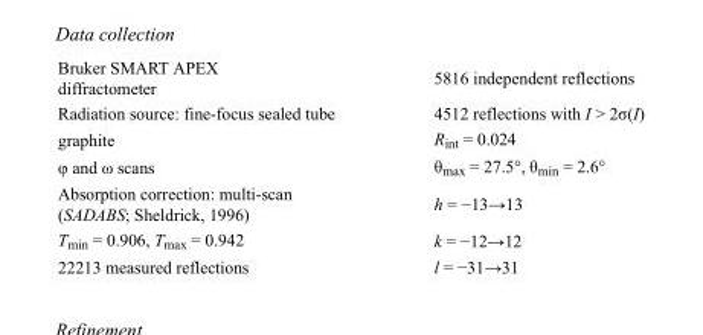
<table><tbody><tr><td>Bruker SMART APEX diffractometer</td><td>5816 independent reflections</td></tr><tr><td>Radiation source: fine-focus sealed tube</td><td>4512 reflections with I &gt; 2σ(I)</td></tr><tr><td>graphite</td><td>R<sub>int</sub> = 0.024</td></tr><tr><td>φ and ω scans</td><td>θ<sub>max</sub> = 27.5°, θ<sub>min</sub> = 2.6°</td></tr><tr><td>Absorption correction: multi-scan (SADABS; Sheldrick, 1996)</td><td>h = −13→13</td></tr><tr><td>T<sub>min</sub> = 0.906, T<sub>max</sub> = 0.942</td><td>k = −12→12</td></tr><tr><td>22213 measured reflections</td><td>l = −31→31</td></tr></tbody></table>